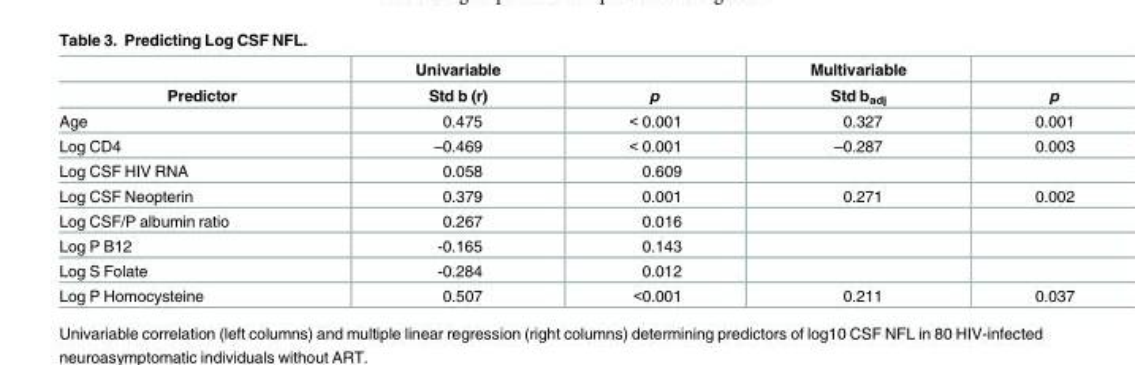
<table><thead><tr><td rowspan="2">Predictor</td><td rowspan="2">Univariable Std b (r)</td><td rowspan="2">p</td><td rowspan="2">Multivariable Std b<sub>adj</sub></td><td rowspan="2">p</td></tr><tr></tr></thead><tbody><tr><td>Age</td><td>0.475</td><td>&lt; 0.001</td><td>0.327</td><td>0.001</td></tr><tr><td>Log CD4</td><td>–0.469</td><td>&lt; 0.001</td><td>–0.287</td><td>0.003</td></tr><tr><td>Log CSF HIV RNA</td><td>0.058</td><td>0.609</td><td></td><td></td></tr><tr><td>Log CSF Neopterin</td><td>0.379</td><td>0.001</td><td>0.271</td><td>0.002</td></tr><tr><td>Log CSF/P albumin ratio</td><td>0.267</td><td>0.016</td><td></td><td></td></tr><tr><td>Log P B12</td><td>-0.165</td><td>0.143</td><td></td><td></td></tr><tr><td>Log S Folate</td><td>-0.284</td><td>0.012</td><td></td><td></td></tr><tr><td>Log P Homocysteine</td><td>0.507</td><td>&lt;0.001</td><td>0.211</td><td>0.037</td></tr></tbody></table>